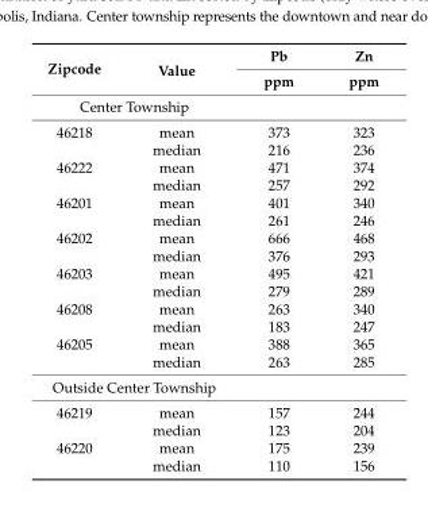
<table><thead><tr><td rowspan="2">Zipcode</td><td rowspan="2">Value</td><td rowspan="2">Pb ppm</td><td rowspan="2">Zn ppm</td></tr><tr></tr></thead><tbody><tr><td colspan="4">Center Township</td></tr><tr><td rowspan="2">46218</td><td>mean</td><td>373</td><td>323</td></tr><tr><td>median</td><td>216</td><td>236</td></tr><tr><td rowspan="2">46222</td><td>mean</td><td>471</td><td>374</td></tr><tr><td>median</td><td>257</td><td>292</td></tr><tr><td rowspan="2">46201</td><td>mean</td><td>401</td><td>340</td></tr><tr><td>median</td><td>261</td><td>246</td></tr><tr><td rowspan="2">46202</td><td>mean</td><td>666</td><td>468</td></tr><tr><td>median</td><td>376</td><td>293</td></tr><tr><td rowspan="2">46203</td><td>mean</td><td>495</td><td>421</td></tr><tr><td>median</td><td>279</td><td>289</td></tr><tr><td rowspan="2">46208</td><td>mean</td><td>263</td><td>340</td></tr><tr><td>median</td><td>183</td><td>247</td></tr><tr><td rowspan="2">46205</td><td>mean</td><td>388</td><td>365</td></tr><tr><td>median</td><td>263</td><td>285</td></tr><tr><td colspan="4">Outside Center Township</td></tr><tr><td rowspan="2">46219</td><td>mean</td><td>157</td><td>244</td></tr><tr><td>median</td><td>123</td><td>204</td></tr><tr><td rowspan="2">46220</td><td>mean</td><td>175</td><td>239</td></tr><tr><td>median</td><td>110</td><td>156</td></tr></tbody></table>